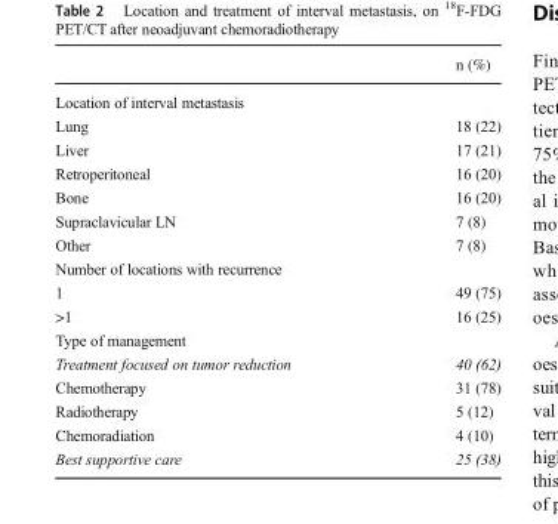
<table><thead><tr><td></td><td>n (%)</td></tr></thead><tbody><tr><td colspan="2">Location of interval metastasis</td></tr><tr><td>Lung</td><td>18 (22)</td></tr><tr><td>Liver</td><td>17 (21)</td></tr><tr><td>Retroperitoneal</td><td>16 (20)</td></tr><tr><td>Bone</td><td>16 (20)</td></tr><tr><td>Supraclavicular LN</td><td>7 (8)</td></tr><tr><td>Other</td><td>7 (8)</td></tr><tr><td colspan="2">Number of locations with recurrence</td></tr><tr><td>1</td><td>49 (75)</td></tr><tr><td>&gt;1</td><td>16 (25)</td></tr><tr><td colspan="2">Type of management</td></tr><tr><td>Treatment focused on tumor reduction</td><td>40 (62)</td></tr><tr><td>Chemotherapy</td><td>31 (78)</td></tr><tr><td>Radiotherapy</td><td>5 (12)</td></tr><tr><td>Chemoradiation</td><td>4 (10)</td></tr><tr><td>Best supportive care</td><td>25 (38)</td></tr></tbody></table>